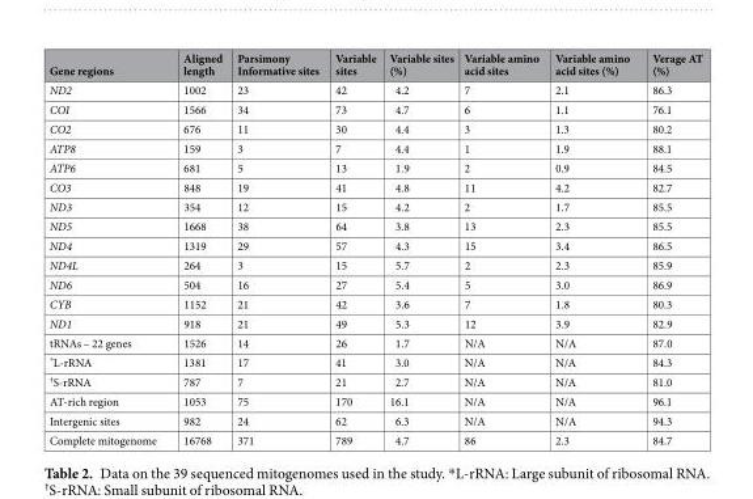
<table><thead><tr><td>Gene regions</td><td>Aligned length</td><td>Parsimony Informative sites</td><td>Variable sites</td><td>Variable sites (%)</td><td>Variable amino acid sites</td><td>Variable amino acid sites (%)</td><td>Verage AT (%)</td></tr></thead><tbody><tr><td>ND2</td><td>1002</td><td>23</td><td>42</td><td>4.2</td><td>7</td><td>2.1</td><td>86.3</td></tr><tr><td>COI</td><td>1566</td><td>34</td><td>73</td><td>4.7</td><td>6</td><td>1.1</td><td>76.1</td></tr><tr><td>CO2</td><td>676</td><td>11</td><td>30</td><td>4.4</td><td>3</td><td>1.3</td><td>80.2</td></tr><tr><td>ATP8</td><td>159</td><td>3</td><td>7</td><td>4.4</td><td>1</td><td>1.9</td><td>88.1</td></tr><tr><td>ATP6</td><td>681</td><td>5</td><td>13</td><td>1.9</td><td>2</td><td>0.9</td><td>84.5</td></tr><tr><td>CO3</td><td>848</td><td>19</td><td>41</td><td>4.8</td><td>11</td><td>4.2</td><td>82.7</td></tr><tr><td>ND3</td><td>354</td><td>12</td><td>15</td><td>4.2</td><td>2</td><td>1.7</td><td>85.5</td></tr><tr><td>ND5</td><td>1668</td><td>38</td><td>64</td><td>3.8</td><td>13</td><td>2.3</td><td>85.5</td></tr><tr><td>ND4</td><td>1319</td><td>29</td><td>57</td><td>4.3</td><td>15</td><td>3.4</td><td>86.5</td></tr><tr><td>ND4L</td><td>264</td><td>3</td><td>15</td><td>5.7</td><td>2</td><td>2.3</td><td>85.9</td></tr><tr><td>ND6</td><td>504</td><td>16</td><td>27</td><td>5.4</td><td>5</td><td>3.0</td><td>86.9</td></tr><tr><td>CYB</td><td>1152</td><td>21</td><td>42</td><td>3.6</td><td>7</td><td>1.8</td><td>80.3</td></tr><tr><td>ND1</td><td>918</td><td>21</td><td>49</td><td>5.3</td><td>12</td><td>3.9</td><td>82.9</td></tr><tr><td>tRNAs – 22 genes</td><td>1526</td><td>14</td><td>26</td><td>1.7</td><td>N/A</td><td>N/A</td><td>87.0</td></tr><tr><td>*L-rRNA</td><td>1381</td><td>17</td><td>41</td><td>3.0</td><td>N/A</td><td>N/A</td><td>84.3</td></tr><tr><td><sup>†</sup>S-rRNA</td><td>787</td><td>7</td><td>21</td><td>2.7</td><td>N/A</td><td>N/A</td><td>81.0</td></tr><tr><td>AT-rich region</td><td>1053</td><td>75</td><td>170</td><td>16.1</td><td>N/A</td><td>N/A</td><td>96.1</td></tr><tr><td>Intergenic sites</td><td>982</td><td>24</td><td>62</td><td>6.3</td><td>N/A</td><td>N/A</td><td>94.3</td></tr><tr><td>Complete mitogenome</td><td>16768</td><td>371</td><td>789</td><td>4.7</td><td>86</td><td>2.3</td><td>84.7</td></tr></tbody></table>